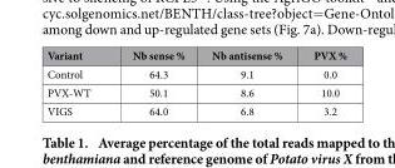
<table><thead><tr><td>Variant</td><td>Nb sense %</td><td>Nb antisense %</td><td>PVX %</td></tr></thead><tbody><tr><td>Control</td><td>64.3</td><td>9.1</td><td>0.0</td></tr><tr><td>PVX-WT</td><td>50.1</td><td>8.6</td><td>10.0</td></tr><tr><td>VIGS</td><td>64.0</td><td>6.8</td><td>3.2</td></tr></tbody></table>